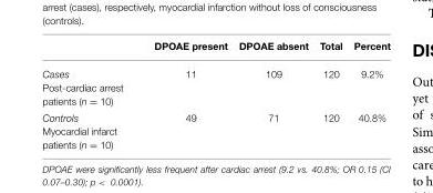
<table><thead><tr><td></td><td>DPOAE present</td><td>DPOAE absent</td><td>Total</td><td>Percent</td></tr></thead><tbody><tr><td>Cases Post-cardiac arrest patients (n = 10)</td><td>11</td><td>109</td><td>120</td><td>9.2%</td></tr><tr><td>Controls Myocardial infarct patients (n = 10)</td><td>49</td><td>71</td><td>120</td><td>40.8%</td></tr></tbody></table>